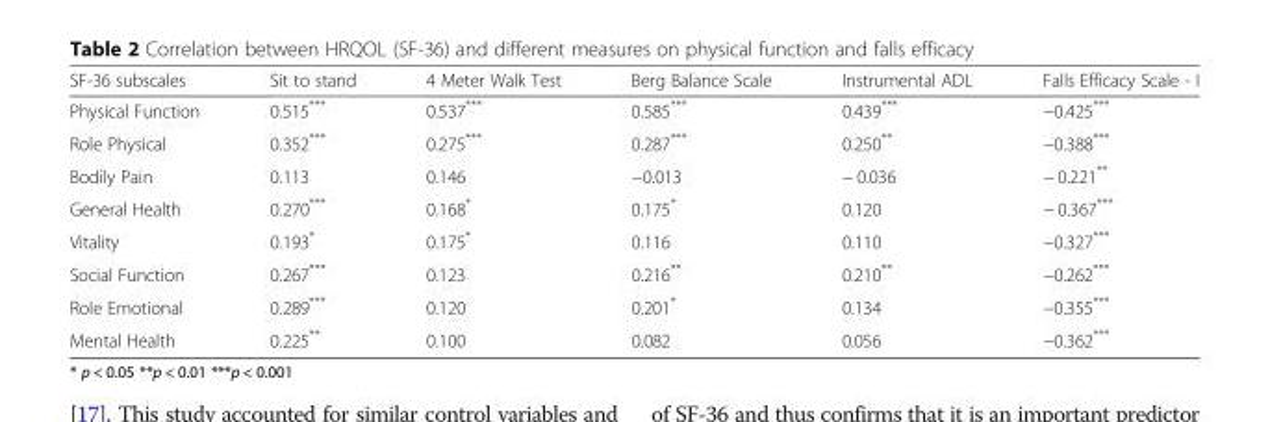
<table><thead><tr><td>SF-36 subscales</td><td>Sit to stand</td><td>4 Meter Walk Test</td><td>Berg Balance Scale</td><td>Instrumental ADL</td><td>Falls Efficacy Scale - I</td></tr></thead><tbody><tr><td>Physical Function</td><td>0.515***</td><td>0.537***</td><td>0.585***</td><td>0.439***</td><td>−0.425***</td></tr><tr><td>Role Physical</td><td>0.352***</td><td>0.275***</td><td>0.287***</td><td>0.250**</td><td>−0.388***</td></tr><tr><td>Bodily Pain</td><td>0.113</td><td>0.146</td><td>−0.013</td><td>− 0.036</td><td>− 0.221**</td></tr><tr><td>General Health</td><td>0.270***</td><td>0.168*</td><td>0.175*</td><td>0.120</td><td>− 0.367***</td></tr><tr><td>Vitality</td><td>0.193*</td><td>0.175*</td><td>0.116</td><td>0.110</td><td>−0.327***</td></tr><tr><td>Social Function</td><td>0.267***</td><td>0.123</td><td>0.216**</td><td>0.210**</td><td>−0.262***</td></tr><tr><td>Role Emotional</td><td>0.289***</td><td>0.120</td><td>0.201*</td><td>0.134</td><td>−0.355***</td></tr><tr><td>Mental Health</td><td>0.225**</td><td>0.100</td><td>0.082</td><td>0.056</td><td>−0.362***</td></tr></tbody></table>